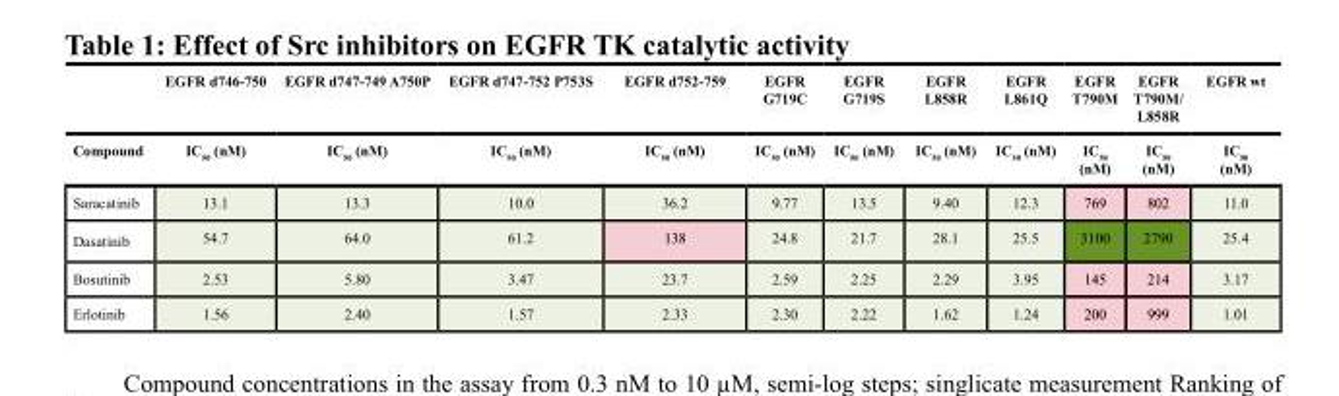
<table><thead><tr><td rowspan="2">Compound</td><td rowspan="2">EGFR d746-750 IC<sub>50</sub> (nM)</td><td rowspan="2">EGFR d747-749 A750P IC<sub>50</sub> (nM)</td><td rowspan="2">EGFR d747-752 P753S IC<sub>50</sub> (nM)</td><td rowspan="2">EGFR d752-759 IC<sub>50</sub> (nM)</td><td rowspan="2">EGFR G719C IC<sub>50</sub> (nM)</td><td rowspan="2">EGFR G719S IC<sub>50</sub> (nM)</td><td rowspan="2">EGFR L858R IC<sub>50</sub> (nM)</td><td rowspan="2">EGFR L861Q IC<sub>50</sub> (nM)</td><td rowspan="2">EGFR T790M IC<sub>50</sub> (nM)</td><td rowspan="2">EGFR T790M/ L858R IC<sub>50</sub> (nM)</td><td rowspan="2">EGFR wt IC<sub>50</sub> (nM)</td></tr><tr></tr></thead><tbody><tr><td>Saracatinib</td><td>13.1</td><td>13.3</td><td>10.0</td><td>36.2</td><td>9.77</td><td>13.5</td><td>9.40</td><td>12.3</td><td>769</td><td>802</td><td>11.0</td></tr><tr><td>Dasatinib</td><td>54.7</td><td>64.0</td><td>61.2</td><td>138</td><td>24.8</td><td>21.7</td><td>28.1</td><td>25.5</td><td>3100</td><td>2790</td><td>25.4</td></tr><tr><td>Bosutinib</td><td>2.53</td><td>5.80</td><td>3.47</td><td>23.7</td><td>2.59</td><td>2.25</td><td>2.29</td><td>3.95</td><td>145</td><td>214</td><td>3.17</td></tr><tr><td>Erlotinib</td><td>1.56</td><td>2.40</td><td>1.57</td><td>2.33</td><td>2.30</td><td>2.22</td><td>1.62</td><td>1.24</td><td>200</td><td>999</td><td>1.01</td></tr></tbody></table>